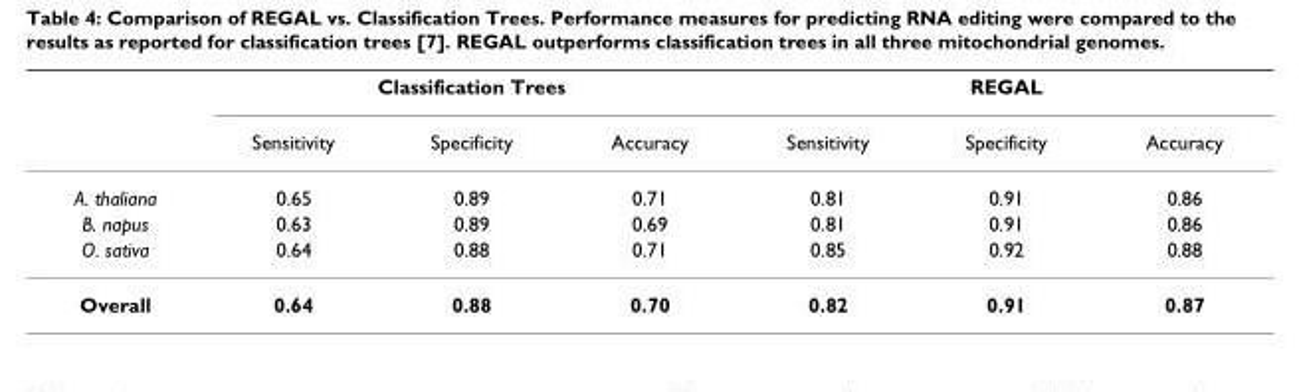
<table><thead><tr><td rowspan="2"></td><td colspan="3">Classification Trees</td><td colspan="3">REGAL</td></tr><tr><td>Sensitivity</td><td>Specificity</td><td>Accuracy</td><td>Sensitivity</td><td>Specificity</td><td>Accuracy</td></tr></thead><tbody><tr><td>A. thaliana</td><td>0.65</td><td>0.89</td><td>0.71</td><td>0.81</td><td>0.91</td><td>0.86</td></tr><tr><td>B. napus</td><td>0.63</td><td>0.89</td><td>0.69</td><td>0.81</td><td>0.91</td><td>0.86</td></tr><tr><td>O. sativa</td><td>0.64</td><td>0.88</td><td>0.71</td><td>0.85</td><td>0.92</td><td>0.88</td></tr><tr><td>Overall</td><td>0.64</td><td>0.88</td><td>0.70</td><td>0.82</td><td>0.91</td><td>0.87</td></tr></tbody></table>